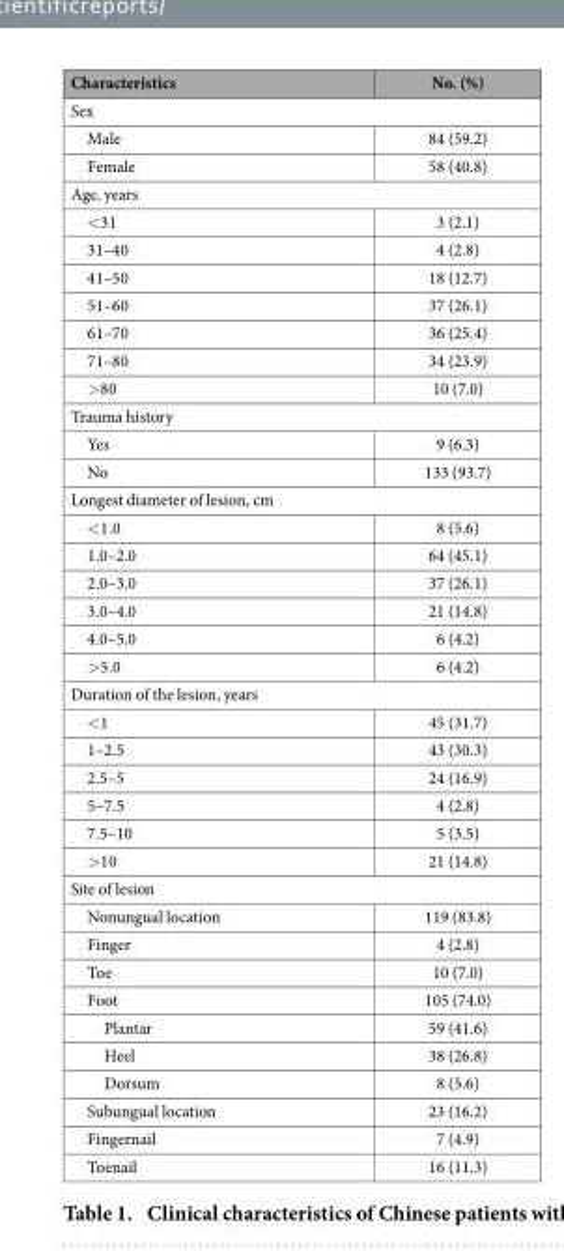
<table><thead><tr><td>Characteristics</td><td>No. (%)</td></tr></thead><tbody><tr><td colspan="2">Sex</td></tr><tr><td>Male</td><td>84 (59.2)</td></tr><tr><td>Female</td><td>58 (40.8)</td></tr><tr><td colspan="2">Age, years</td></tr><tr><td>&lt; 31</td><td>3 (2.1)</td></tr><tr><td>31–40</td><td>4 (2.8)</td></tr><tr><td>41–50</td><td>18 (12.7)</td></tr><tr><td>51–60</td><td>37 (26.1)</td></tr><tr><td>61–70</td><td>36 (25.4)</td></tr><tr><td>71–80</td><td>34 (23.9)</td></tr><tr><td>&gt; 80</td><td>10 (7.0)</td></tr><tr><td colspan="2">Trauma history</td></tr><tr><td>Yes</td><td>9 (6.3)</td></tr><tr><td>No</td><td>133 (93.7)</td></tr><tr><td colspan="2">Longest diameter of lesion, cm</td></tr><tr><td>&lt; 1.0</td><td>8 (5.6)</td></tr><tr><td>1.0–2.0</td><td>64 (45.1)</td></tr><tr><td>2.0–3.0</td><td>37 (26.1)</td></tr><tr><td>3.0–4.0</td><td>21 (14.8)</td></tr><tr><td>4.0–5.0</td><td>6 (4.2)</td></tr><tr><td>&gt; 5.0</td><td>6 (4.2)</td></tr><tr><td colspan="2">Duration of the lesion, years</td></tr><tr><td>&lt; 1</td><td>45 (31.7)</td></tr><tr><td>1–2.5</td><td>43 (30.3)</td></tr><tr><td>2.5–5</td><td>24 (16.9)</td></tr><tr><td>5–7.5</td><td>4 (2.8)</td></tr><tr><td>7.5–10</td><td>5 (3.5)</td></tr><tr><td>&gt; 10</td><td>21 (14.8)</td></tr><tr><td colspan="2">Site of lesion</td></tr><tr><td>Nonungual location</td><td>119 (83.8)</td></tr><tr><td>Finger</td><td>4 (2.8)</td></tr><tr><td>Toe</td><td>10 (7.0)</td></tr><tr><td>Foot</td><td>105 (74.0)</td></tr><tr><td>Plantar</td><td>59 (41.6)</td></tr><tr><td>Heel</td><td>38 (26.8)</td></tr><tr><td>Dorsum</td><td>8 (5.6)</td></tr><tr><td>Subungual location</td><td>23 (16.2)</td></tr><tr><td>Fingernail</td><td>7 (4.9)</td></tr><tr><td>Toenail</td><td>16 (11.3)</td></tr></tbody></table>